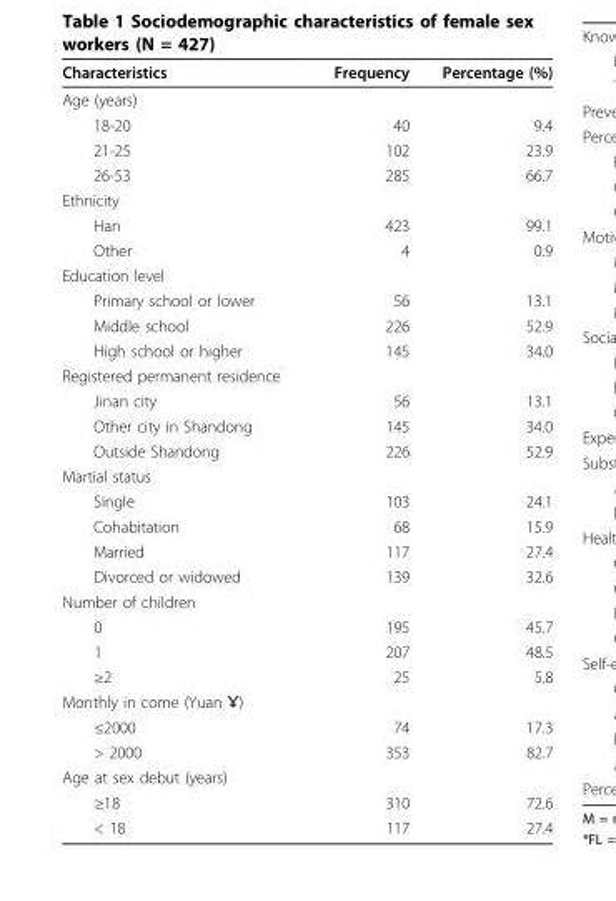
<table><thead><tr><td>Characteristics</td><td>Frequency</td><td>Percentage (%)</td></tr></thead><tbody><tr><td colspan="3">Age (years)</td></tr><tr><td>18-20</td><td>40</td><td>9.4</td></tr><tr><td>21-25</td><td>102</td><td>23.9</td></tr><tr><td>26-53</td><td>285</td><td>66.7</td></tr><tr><td colspan="3">Ethnicity</td></tr><tr><td>Han</td><td>423</td><td>99.1</td></tr><tr><td>Other</td><td>4</td><td>0.9</td></tr><tr><td colspan="3">Education level</td></tr><tr><td>Primary school or lower</td><td>56</td><td>13.1</td></tr><tr><td>Middle school</td><td>226</td><td>52.9</td></tr><tr><td>High school or higher</td><td>145</td><td>34.0</td></tr><tr><td colspan="3">Registered permanent residence</td></tr><tr><td>Jinan city</td><td>56</td><td>13.1</td></tr><tr><td>Other city in Shandong</td><td>145</td><td>34.0</td></tr><tr><td>Outside Shandong</td><td>226</td><td>52.9</td></tr><tr><td colspan="3">Martial status</td></tr><tr><td>Single</td><td>103</td><td>24.1</td></tr><tr><td>Cohabitation</td><td>68</td><td>15.9</td></tr><tr><td>Married</td><td>117</td><td>27.4</td></tr><tr><td>Divorced or widowed</td><td>139</td><td>32.6</td></tr><tr><td colspan="3">Number of children</td></tr><tr><td>0</td><td>195</td><td>45.7</td></tr><tr><td>1</td><td>207</td><td>48.5</td></tr><tr><td>≥2</td><td>25</td><td>5.8</td></tr><tr><td colspan="3">Monthly in come (Yuan Ұ)</td></tr><tr><td>≤2000</td><td>74</td><td>17.3</td></tr><tr><td>&gt; 2000</td><td>353</td><td>82.7</td></tr><tr><td colspan="3">Age at sex debut (years)</td></tr><tr><td>≥18</td><td>310</td><td>72.6</td></tr><tr><td>&lt; 18</td><td>117</td><td>27.4</td></tr></tbody></table>